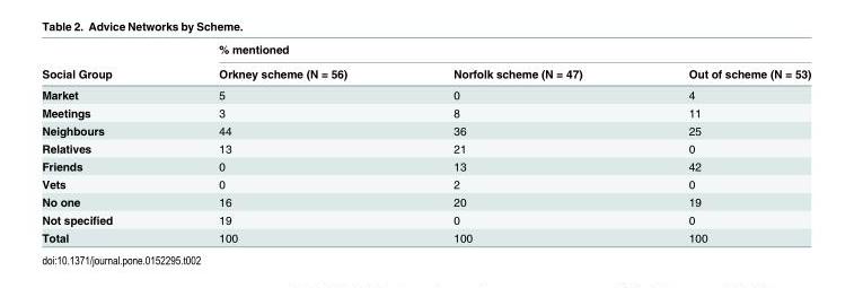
<table><thead><tr><td rowspan="2">Social Group</td><td colspan="3">% mentioned</td></tr><tr><td>Orkney scheme (N = 56)</td><td>Norfolk scheme (N = 47)</td><td>Out of scheme (N = 53)</td></tr></thead><tbody><tr><td>Market</td><td>5</td><td>0</td><td>4</td></tr><tr><td>Meetings</td><td>3</td><td>8</td><td>11</td></tr><tr><td>Neighbours</td><td>44</td><td>36</td><td>25</td></tr><tr><td>Relatives</td><td>13</td><td>21</td><td>0</td></tr><tr><td>Friends</td><td>0</td><td>13</td><td>42</td></tr><tr><td>Vets</td><td>0</td><td>2</td><td>0</td></tr><tr><td>No one</td><td>16</td><td>20</td><td>19</td></tr><tr><td>Not specified</td><td>19</td><td>0</td><td>0</td></tr><tr><td>Total</td><td>100</td><td>100</td><td>100</td></tr></tbody></table>